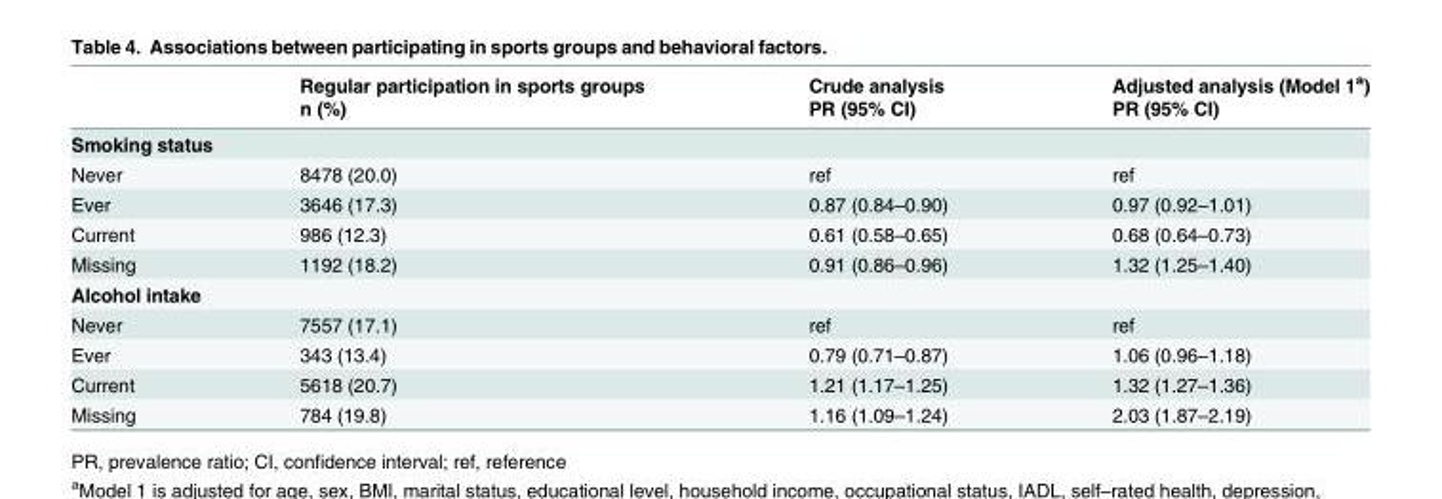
<table><thead><tr><td rowspan="2"></td><td rowspan="2">Regular participation in sports groups n (%)</td><td rowspan="2">Crude analysis PR (95% CI)</td><td rowspan="2">Adjusted analysis (Model 1<sup>a</sup>) PR (95% CI)</td></tr><tr></tr></thead><tbody><tr><td colspan="4">Smoking status</td></tr><tr><td>Never</td><td>8478 (20.0)</td><td>ref</td><td>ref</td></tr><tr><td>Ever</td><td>3646 (17.3)</td><td>0.87 (0.84–0.90)</td><td>0.97 (0.92–1.01)</td></tr><tr><td>Current</td><td>986 (12.3)</td><td>0.61 (0.58–0.65)</td><td>0.68 (0.64–0.73)</td></tr><tr><td>Missing</td><td>1192 (18.2)</td><td>0.91 (0.86–0.96)</td><td>1.32 (1.25–1.40)</td></tr><tr><td colspan="4">Alcohol intake</td></tr><tr><td>Never</td><td>7557 (17.1)</td><td>ref</td><td>ref</td></tr><tr><td>Ever</td><td>343 (13.4)</td><td>0.79 (0.71–0.87)</td><td>1.06 (0.96–1.18)</td></tr><tr><td>Current</td><td>5618 (20.7)</td><td>1.21 (1.17–1.25)</td><td>1.32 (1.27–1.36)</td></tr><tr><td>Missing</td><td>784 (19.8)</td><td>1.16 (1.09–1.24)</td><td>2.03 (1.87–2.19)</td></tr></tbody></table>